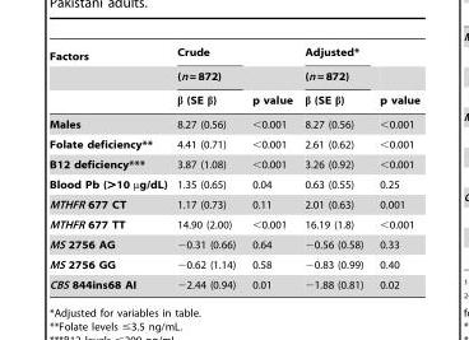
<table><thead><tr><td rowspan="3">Factors</td><td rowspan="3">Crude (n = 872) β (SE β)</td><td rowspan="3">p value</td><td rowspan="3">Adjusted* (n = 872) β (SE β)</td><td rowspan="3">p value</td></tr><tr></tr><tr></tr></thead><tbody><tr><td>Males</td><td>8.27 (0.56)</td><td>&lt;0.001</td><td>8.27 (0.56)</td><td>&lt;0.001</td></tr><tr><td>Folate deficiency**</td><td>4.41 (0.71)</td><td>&lt;0.001</td><td>2.61 (0.62)</td><td>&lt;0.001</td></tr><tr><td>B12 deficiency***</td><td>3.87 (1.08)</td><td>&lt;0.001</td><td>3.26 (0.92)</td><td>&lt;0.001</td></tr><tr><td>Blood Pb (&gt;10 µg/dL)</td><td>1.35 (0.65)</td><td>0.04</td><td>0.63 (0.55)</td><td>0.25</td></tr><tr><td>MTHFR 677 CT</td><td>1.17 (0.73)</td><td>0.11</td><td>2.01 (0.63)</td><td>0.001</td></tr><tr><td>MTHFR 677 TT</td><td>14.90 (2.00)</td><td>&lt;0.001</td><td>16.19 (1.8)</td><td>&lt;0.001</td></tr><tr><td>MS 2756 AG</td><td>−0.31 (0.66)</td><td>0.64</td><td>−0.56 (0.58)</td><td>0.33</td></tr><tr><td>MS 2756 GG</td><td>−0.62 (1.14)</td><td>0.58</td><td>−0.83 (0.99)</td><td>0.40</td></tr><tr><td>CBS 844ins68 AI</td><td>−2.44 (0.94)</td><td>0.01</td><td>−1.88 (0.81)</td><td>0.02</td></tr></tbody></table>